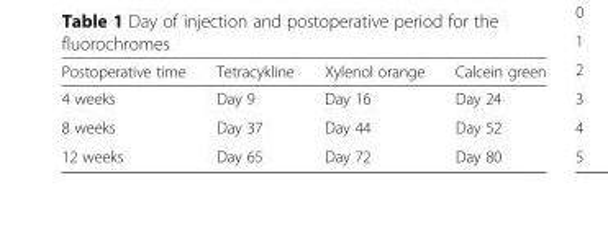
<table><thead><tr><td>Postoperative time</td><td>Tetracykline</td><td>Xylenol orange</td><td>Calcein green</td></tr></thead><tbody><tr><td>4 weeks</td><td>Day 9</td><td>Day 16</td><td>Day 24</td></tr><tr><td>8 weeks</td><td>Day 37</td><td>Day 44</td><td>Day 52</td></tr><tr><td>12 weeks</td><td>Day 65</td><td>Day 72</td><td>Day 80</td></tr></tbody></table>